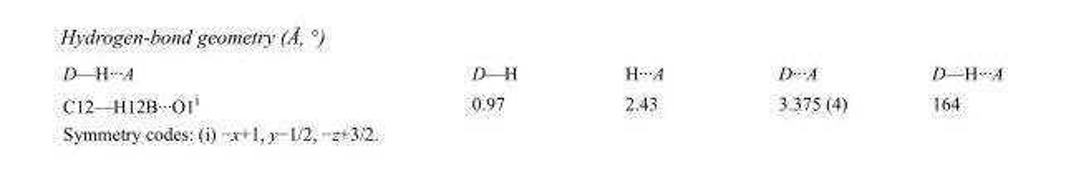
<table><tbody><tr><td>D—H···A</td><td>D—H</td><td>H···A</td><td>D···A</td><td>D—H···A</td></tr><tr><td>C12—H12B···O1<sup>i</sup></td><td>0.97</td><td>2.43</td><td>3.375 (4)</td><td>164</td></tr></tbody></table>